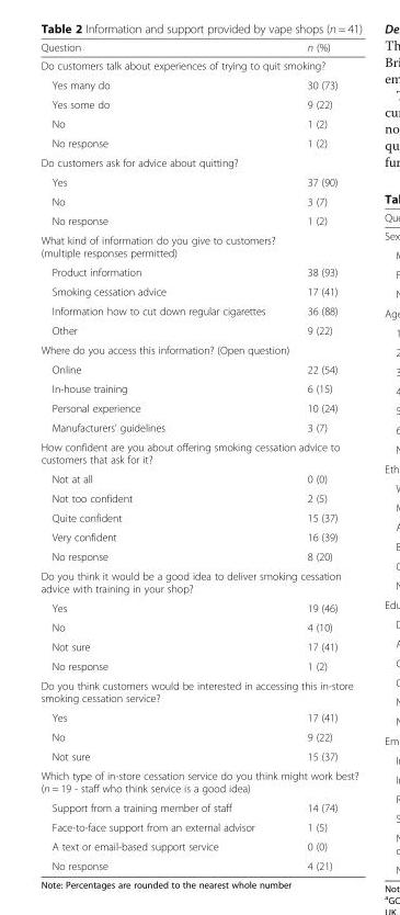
<table><thead><tr><td>Question</td><td>n (%)</td></tr></thead><tbody><tr><td colspan="2">Do customers talk about experiences of trying to quit smoking?</td></tr><tr><td>Yes many do</td><td>30 (73)</td></tr><tr><td>Yes some do</td><td>9 (22)</td></tr><tr><td>No</td><td>1 (2)</td></tr><tr><td>No response</td><td>1 (2)</td></tr><tr><td colspan="2">Do customers ask for advice about quitting?</td></tr><tr><td>Yes</td><td>37 (90)</td></tr><tr><td>No</td><td>3 (7)</td></tr><tr><td>No response</td><td>1 (2)</td></tr><tr><td colspan="2">What kind of information do you give to customers? (multiple responses permitted)</td></tr><tr><td>Product information</td><td>38 (93)</td></tr><tr><td>Smoking cessation advice</td><td>17 (41)</td></tr><tr><td>Information how to cut down regular cigarettes</td><td>36 (88)</td></tr><tr><td>Other</td><td>9 (22)</td></tr><tr><td colspan="2">Where do you access this information? (Open question)</td></tr><tr><td>Online</td><td>22 (54)</td></tr><tr><td>In-house training</td><td>6 (15)</td></tr><tr><td>Personal experience</td><td>10 (24)</td></tr><tr><td>Manufacturers&#x27; guidelines</td><td>3 (7)</td></tr><tr><td colspan="2">How confident are you about offering smoking cessation advice to customers that ask for it?</td></tr><tr><td>Not at all</td><td>0 (0)</td></tr><tr><td>Not too confident</td><td>2 (5)</td></tr><tr><td>Quite confident</td><td>15 (37)</td></tr><tr><td>Very confident</td><td>16 (39)</td></tr><tr><td>No response</td><td>8 (20)</td></tr><tr><td colspan="2">Do you think it would be a good idea to deliver smoking cessation advice with training in your shop?</td></tr><tr><td>Yes</td><td>19 (46)</td></tr><tr><td>No</td><td>4 (10)</td></tr><tr><td>Not sure</td><td>17 (41)</td></tr><tr><td>No response</td><td>1 (2)</td></tr><tr><td colspan="2">Do you think customers would be interested in accessing this in-store smoking cessation service?</td></tr><tr><td>Yes</td><td>17 (41)</td></tr><tr><td>No</td><td>9 (22)</td></tr><tr><td>Not sure</td><td>15 (37)</td></tr><tr><td colspan="2">Which type of in-store cessation service do you think might work best? (n = 19 - staff who think service is a good idea)</td></tr><tr><td>Support from a training member of staff</td><td>14 (74)</td></tr><tr><td>Face-to-face support from an external advisor</td><td>1 (5)</td></tr><tr><td>A text or email-based support service</td><td>0 (0)</td></tr><tr><td>No response</td><td>4 (21)</td></tr></tbody></table>